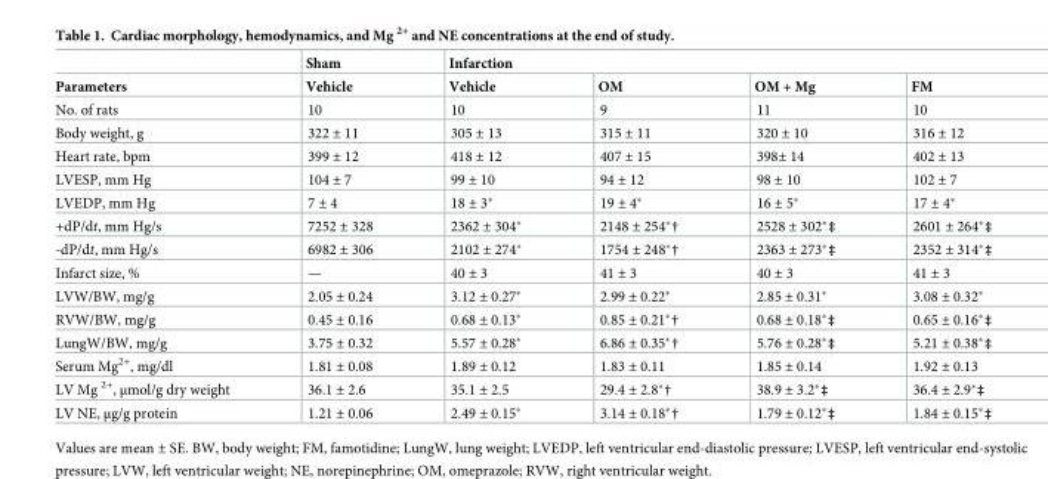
<table><thead><tr><td rowspan="2">Parameters</td><td rowspan="2">Sham Vehicle</td><td colspan="4">Infarction</td></tr><tr><td>Vehicle</td><td>OM</td><td>OM + Mg</td><td>FM</td></tr></thead><tbody><tr><td>No. of rats</td><td>10</td><td>10</td><td>9</td><td>11</td><td>10</td></tr><tr><td>Body weight, g</td><td>322 ± 11</td><td>305 ± 13</td><td>315 ± 11</td><td>320 ± 10</td><td>316 ± 12</td></tr><tr><td>Heart rate, bpm</td><td>399 ± 12</td><td>418 ± 12</td><td>407 ± 15</td><td>398± 14</td><td>402 ± 13</td></tr><tr><td>LVESP, mm Hg</td><td>104 ± 7</td><td>99 ± 10</td><td>94 ± 12</td><td>98 ± 10</td><td>102 ± 7</td></tr><tr><td>LVEDP, mm Hg</td><td>7 ± 4</td><td>18 ± 3*</td><td>19 ± 4*</td><td>16 ± 5*</td><td>17 ± 4*</td></tr><tr><td>+dP/dt, mm Hg/s</td><td>7252 ± 328</td><td>2362 ± 304*</td><td>2148 ± 254*†</td><td>2528 ± 302*‡</td><td>2601 ± 264*‡</td></tr><tr><td>-dP/dt, mm Hg/s</td><td>6982 ± 306</td><td>2102 ± 274*</td><td>1754 ± 248*†</td><td>2363 ± 273*‡</td><td>2352 ± 314*‡</td></tr><tr><td>Infarct size, %</td><td>—</td><td>40 ± 3</td><td>41 ± 3</td><td>40 ± 3</td><td>41 ± 3</td></tr><tr><td>LVW/BW, mg/g</td><td>2.05 ± 0.24</td><td>3.12 ± 0.27*</td><td>2.99 ± 0.22*</td><td>2.85 ± 0.31*</td><td>3.08 ± 0.32*</td></tr><tr><td>RVW/BW, mg/g</td><td>0.45 ± 0.16</td><td>0.68 ± 0.13*</td><td>0.85 ± 0.21*†</td><td>0.68 ± 0.18*‡</td><td>0.65 ± 0.16*‡</td></tr><tr><td>LungW/BW, mg/g</td><td>3.75 ± 0.32</td><td>5.57 ± 0.28*</td><td>6.86 ± 0.35*†</td><td>5.76 ± 0.28*‡</td><td>5.21 ± 0.38*‡</td></tr><tr><td>Serum Mg<sup>2+</sup>, mg/dl</td><td>1.81 ± 0.08</td><td>1.89 ± 0.12</td><td>1.83 ± 0.11</td><td>1.85 ± 0.14</td><td>1.92 ± 0.13</td></tr><tr><td>LV Mg <sup>2+</sup>, μmol/g dry weight</td><td>36.1 ± 2.6</td><td>35.1 ± 2.5</td><td>29.4 ± 2.8*†</td><td>38.9 ± 3.2*‡</td><td>36.4 ± 2.9*‡</td></tr><tr><td>LV NE, μg/g protein</td><td>1.21 ± 0.06</td><td>2.49 ± 0.15*</td><td>3.14 ± 0.18*†</td><td>1.79 ± 0.12*‡</td><td>1.84 ± 0.15*‡</td></tr></tbody></table>